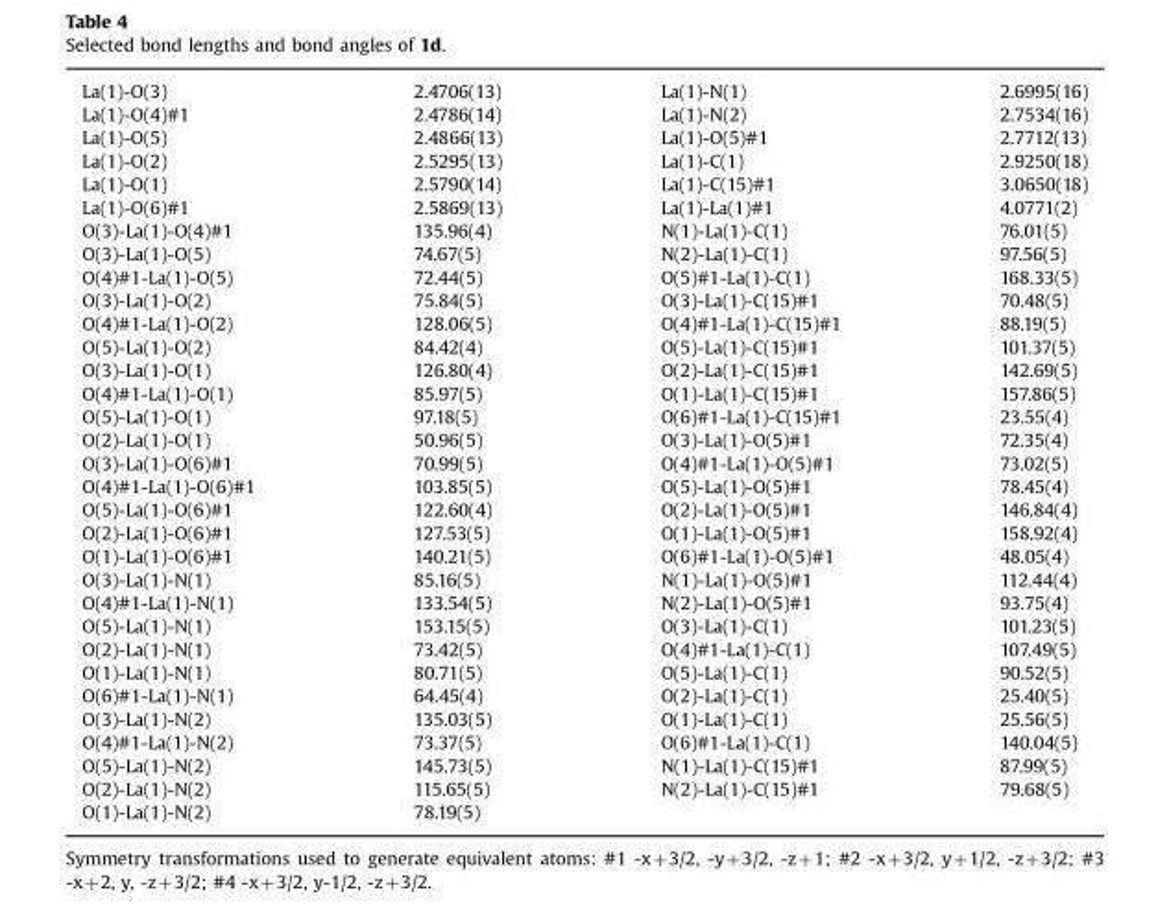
<table><tbody><tr><td>La(1)-O(3)</td><td>2.4706(13)</td><td>La(1)-N(1)</td><td>2.6995(16)</td></tr><tr><td>La(1)-O(4)#1</td><td>2.4786(14)</td><td>La(1)-N(2)</td><td>2.7534(16)</td></tr><tr><td>La(1)-O(5)</td><td>2.4866(13)</td><td>La(1)-O(5)#1</td><td>2.7712(13)</td></tr><tr><td>La(1)-O(2)</td><td>2.5295(13)</td><td>La(1)-C(1)</td><td>2.9250(18)</td></tr><tr><td>La(1)-O(1)</td><td>2.5790(14)</td><td>La(1)-C(15)#1</td><td>3.0650(18)</td></tr><tr><td>La(1)-O(6)#1</td><td>2.5869(13)</td><td>La(1)-La(1)#1</td><td>4.0771(2)</td></tr><tr><td>O(3)-La(1)-O(4)#1</td><td>135.96(4)</td><td>N(1)-La(1)-C(1)</td><td>76.01(5)</td></tr><tr><td>O(3)-La(1)-O(5)</td><td>74.67(5)</td><td>N(2)-La(1)-C(1)</td><td>97.56(5)</td></tr><tr><td>O(4)#1-La(1)-O(5)</td><td>72.44(5)</td><td>O(5)#1-La(1)-C(1)</td><td>168.33(5)</td></tr><tr><td>O(3)-La(1)-O(2)</td><td>75.84(5)</td><td>O(3)-La(1)-C(15)#1</td><td>70.48(5)</td></tr><tr><td>O(4)#1-La(1)-O(2)</td><td>128.06(5)</td><td>O(4)#1-La(1)-C(15)#1</td><td>88.19(5)</td></tr><tr><td>O(5)-La(1)-O(2)</td><td>84.42(4)</td><td>O(5)-La(1)-C(15)#1</td><td>101.37(5)</td></tr><tr><td>O(3)-La(1)-O(1)</td><td>126.80(4)</td><td>O(2)-La(1)-C(15)#1</td><td>142.69(5)</td></tr><tr><td>O(4)#1-La(1)-O(1)</td><td>85.97(5)</td><td>O(1)-La(1)-C(15)#1</td><td>157.86(5)</td></tr><tr><td>O(5)-La(1)-O(1)</td><td>97.18(5)</td><td>O(6)#1-La(1)-C(15)#1</td><td>23.55(4)</td></tr><tr><td>O(2)-La(1)-O(1)</td><td>50.96(5)</td><td>O(3)-La(1)-O(5)#1</td><td>72.35(4)</td></tr><tr><td>O(3)-La(1)-O(6)#1</td><td>70.99(5)</td><td>O(4)#1-La(1)-O(5)#1</td><td>73.02(5)</td></tr><tr><td>O(4)#1-La(1)-O(6)#1</td><td>103.85(5)</td><td>O(5)-La(1)-O(5)#1</td><td>78.45(4)</td></tr><tr><td>O(5)-La(1)-O(6)#1</td><td>122.60(4)</td><td>O(2)-La(1)-O(5)#1</td><td>146.84(4)</td></tr><tr><td>O(2)-La(1)-O(6)#1</td><td>127.53(5)</td><td>O(1)-La(1)-O(5)#1</td><td>158.92(4)</td></tr><tr><td>O(1)-La(1)-O(6)#1</td><td>140.21(5)</td><td>O(6)#1-La(1)-O(5)#1</td><td>48.05(4)</td></tr><tr><td>O(3)-La(1)-N(1)</td><td>85.16(5)</td><td>N(1)-La(1)-O(5)#1</td><td>112.44(4)</td></tr><tr><td>O(4)#1-La(1)-N(1)</td><td>133.54(5)</td><td>N(2)-La(1)-O(5)#1</td><td>93.75(4)</td></tr><tr><td>O(5)-La(1)-N(1)</td><td>153.15(5)</td><td>O(3)-La(1)-C(1)</td><td>101.23(5)</td></tr><tr><td>O(2)-La(1)-N(1)</td><td>73.42(5)</td><td>O(4)#1-La(1)-C(1)</td><td>107.49(5)</td></tr><tr><td>O(1)-La(1)-N(1)</td><td>80.71(5)</td><td>O(5)-La(1)-C(1)</td><td>90.52(5)</td></tr><tr><td>O(6)#1-La(1)-N(1)</td><td>64.45(4)</td><td>O(2)-La(1)-C(1)</td><td>25.40(5)</td></tr><tr><td>O(3)-La(1)-N(2)</td><td>135.03(5)</td><td>O(1)-La(1)-C(1)</td><td>25.56(5)</td></tr><tr><td>O(4)#1-La(1)-N(2)</td><td>73.37(5)</td><td>O(6)#1-La(1)-C(1)</td><td>140.04(5)</td></tr><tr><td>O(5)-La(1)-N(2)</td><td>145.73(5)</td><td>N(1)-La(1)-C(15)#1</td><td>87.99(5)</td></tr><tr><td>O(2)-La(1)-N(2)</td><td>115.65(5)</td><td>N(2)-La(1)-C(15)#1</td><td>79.68(5)</td></tr><tr><td>O(1)-La(1)-N(2)</td><td>78.19(5)</td><td></td><td></td></tr></tbody></table>